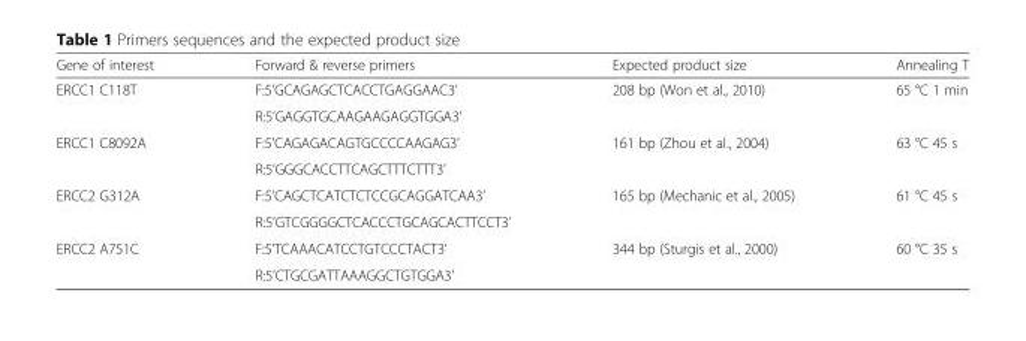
<table><thead><tr><td>Gene of interest</td><td>Forward &amp; reverse primers</td><td>Expected product size</td><td>Annealing T</td></tr></thead><tbody><tr><td rowspan="2">ERCC1 C118T</td><td>F:5’GCAGAGCTCACCTGAGGAAC3’</td><td rowspan="2">208 bp (Won et al., 2010)</td><td rowspan="2">65 °C 1 min</td></tr><tr><td>R:5’GAGGTGCAAGAAGAGGTGGA3’</td></tr><tr><td rowspan="2">ERCC1 C8092A</td><td>F:5’CAGAGACAGTGCCCCAAGAG3’</td><td rowspan="2">161 bp (Zhou et al., 2004)</td><td rowspan="2">63 °C 45 s</td></tr><tr><td>R:5’GGGCACCTTCAGCTTTCTTT3’</td></tr><tr><td rowspan="2">ERCC2 G312A</td><td>F:5’CAGCTCATCTCTCCGCAGGATCAA3’</td><td rowspan="2">165 bp (Mechanic et al., 2005)</td><td rowspan="2">61 °C 45 s</td></tr><tr><td>R:5’GTCGGGGCTCACCCTGCAGCACTTCCT3’</td></tr><tr><td rowspan="2">ERCC2 A751C</td><td>F:5’TCAAACATCCTGTCCCTACT3’</td><td rowspan="2">344 bp (Sturgis et al., 2000)</td><td rowspan="2">60 °C 35 s</td></tr><tr><td>R:5’CTGCGATTAAAGGCTGTGGA3’</td></tr></tbody></table>